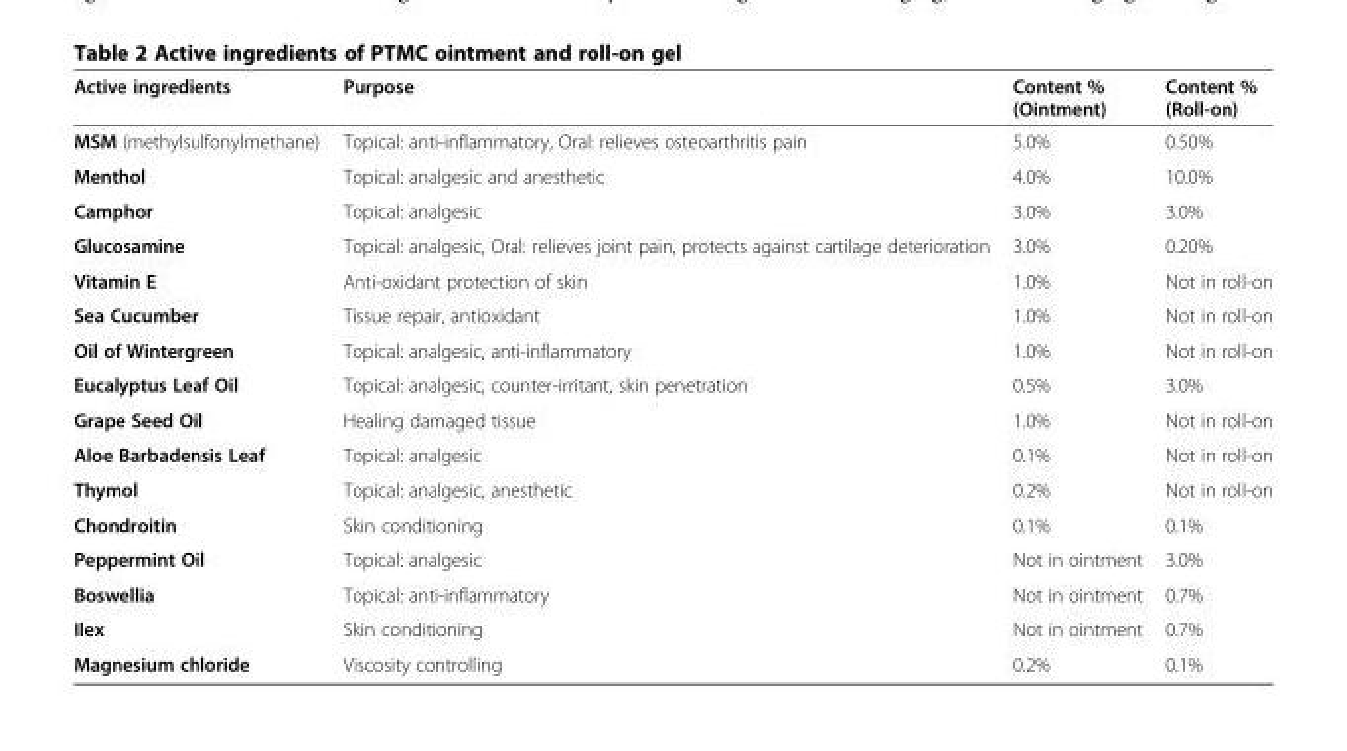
<table><thead><tr><td>Active ingredients</td><td>Purpose</td><td>Content % (Ointment)</td><td>Content % (Roll-on)</td></tr></thead><tbody><tr><td>MSM (methylsulfonylmethane)</td><td>Topical: anti-inflammatory, Oral: relieves osteoarthritis pain</td><td>5.0%</td><td>0.50%</td></tr><tr><td>Menthol</td><td>Topical: analgesic and anesthetic</td><td>4.0%</td><td>10.0%</td></tr><tr><td>Camphor</td><td>Topical: analgesic</td><td>3.0%</td><td>3.0%</td></tr><tr><td>Glucosamine</td><td>Topical: analgesic, Oral: relieves joint pain, protects against cartilage deterioration</td><td>3.0%</td><td>0.20%</td></tr><tr><td>Vitamin E</td><td>Anti-oxidant protection of skin</td><td>1.0%</td><td>Not in roll-on</td></tr><tr><td>Sea Cucumber</td><td>Tissue repair, antioxidant</td><td>1.0%</td><td>Not in roll-on</td></tr><tr><td>Oil of Wintergreen</td><td>Topical: analgesic, anti-inflammatory</td><td>1.0%</td><td>Not in roll-on</td></tr><tr><td>Eucalyptus Leaf Oil</td><td>Topical: analgesic, counter-irritant, skin penetration</td><td>0.5%</td><td>3.0%</td></tr><tr><td>Grape Seed Oil</td><td>Healing damaged tissue</td><td>1.0%</td><td>Not in roll-on</td></tr><tr><td>Aloe Barbadensis Leaf</td><td>Topical: analgesic</td><td>0.1%</td><td>Not in roll-on</td></tr><tr><td>Thymol</td><td>Topical: analgesic, anesthetic</td><td>0.2%</td><td>Not in roll-on</td></tr><tr><td>Chondroitin</td><td>Skin conditioning</td><td>0.1%</td><td>0.1%</td></tr><tr><td>Peppermint Oil</td><td>Topical: analgesic</td><td>Not in ointment</td><td>3.0%</td></tr><tr><td>Boswellia</td><td>Topical: anti-inflammatory</td><td>Not in ointment</td><td>0.7%</td></tr><tr><td>Ilex</td><td>Skin conditioning</td><td>Not in ointment</td><td>0.7%</td></tr><tr><td>Magnesium chloride</td><td>Viscosity controlling</td><td>0.2%</td><td>0.1%</td></tr></tbody></table>